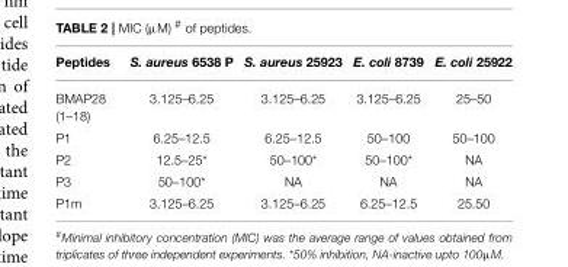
<table><thead><tr><td>Peptides</td><td>S. aureus 6538 P</td><td>S. aureus 25923</td><td>E. coli 8739</td><td>E. coli 25922</td></tr></thead><tbody><tr><td>BMAP28 (1–18)</td><td>3.125–6.25</td><td>3.125–6.25</td><td>3.125–6.25</td><td>25–50</td></tr><tr><td>P1</td><td>6.25–12.5</td><td>6.25–12.5</td><td>50–100</td><td>50–100</td></tr><tr><td>P2</td><td>12.5–25*</td><td>50–100*</td><td>50–100*</td><td>NA</td></tr><tr><td>P3</td><td>50–100*</td><td>NA</td><td>NA</td><td>NA</td></tr><tr><td>P1m</td><td>3.125–6.25</td><td>3.125–6.25</td><td>6.25–12.5</td><td>25.50</td></tr></tbody></table>